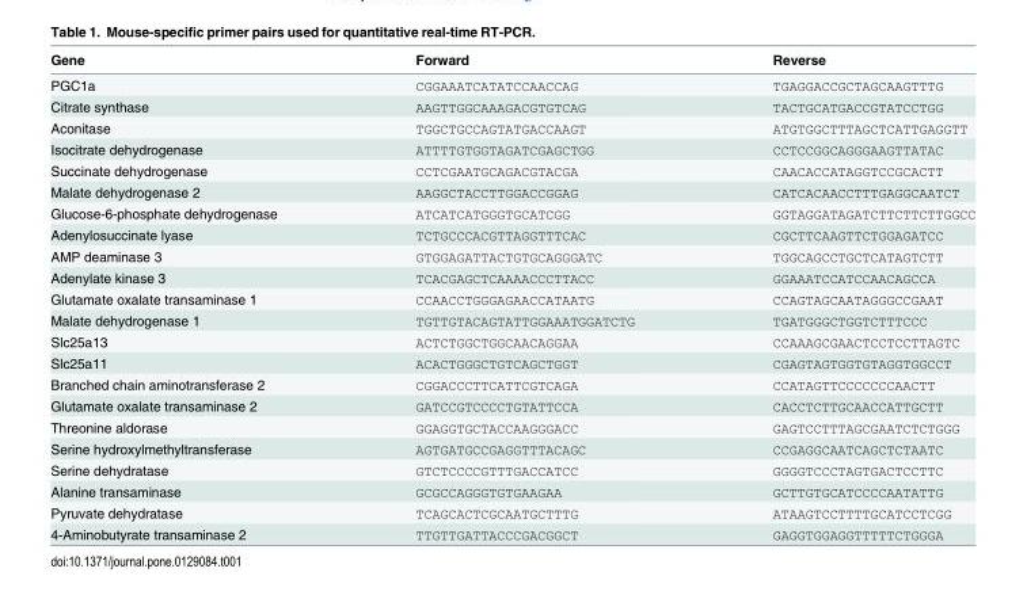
<table><thead><tr><td>Gene</td><td>Forward</td><td>Reverse</td></tr></thead><tbody><tr><td>PGC1a</td><td>CGGAAATCATATCCAACCAG</td><td>TGAGGACCGCTAGCAAGTTTG</td></tr><tr><td>Citrate synthase</td><td>AAGTTGGCAAAGACGTGTCAG</td><td>TACTGCATGACCGTATCCTGG</td></tr><tr><td>Aconitase</td><td>TGGCTGCCAGTATGACCAAGT</td><td>ATGTGGCTTTAGCTCATTGAGGTT</td></tr><tr><td>Isocitrate dehydrogenase</td><td>ATTTTGTGGTAGATCGAGCTGG</td><td>CCTCCGGCAGGGAAGTTATAC</td></tr><tr><td>Succinate dehydrogenase</td><td>CCTCGAATGCAGACGTACGA</td><td>CAACACCATAGGTCCGCACTT</td></tr><tr><td>Malate dehydrogenase 2</td><td>AAGGCTACCTTGGACCGGAG</td><td>CATCACAACCTTTGAGGCAATCT</td></tr><tr><td>Glucose-6-phosphate dehydrogenase</td><td>ATCATCATGGGTGCATCGG</td><td>GGTAGGATAGATCTTCTTCTTGGCC</td></tr><tr><td>Adenylosuccinate lyase</td><td>TCTGCCCACGTTAGGTTTCAC</td><td>CGCTTCAAGTTCTGGAGATCC</td></tr><tr><td>AMP deaminase 3</td><td>GTGGAGATTACTGTGCAGGGATC</td><td>TGGCAGCCTGCTCATAGTCTT</td></tr><tr><td>Adenylate kinase 3</td><td>TCACGAGCTCAAAACCCTTACC</td><td>GGAAATCCATCCAACAGCCA</td></tr><tr><td>Glutamate oxalate transaminase 1</td><td>CCAACCTGGGAGAACCATAATG</td><td>CCAGTAGCAATAGGGCCGAAT</td></tr><tr><td>Malate dehydrogenase 1</td><td>TGTTGTACAGTATTGGAAATGGATCTG</td><td>TGATGGGCTGGTCTTTCCC</td></tr><tr><td>Slc25a13</td><td>ACTCTGGCTGGCAACAGGAA</td><td>CCAAAGCGAACTCCTCCTTAGTC</td></tr><tr><td>Slc25a11</td><td>ACACTGGGCTGTCAGCTGGT</td><td>CGAGTAGTGGTGTAGGTGGCCT</td></tr><tr><td>Branched chain aminotransferase 2</td><td>CGGACCCTTCATTCGTCAGA</td><td>CCATAGTTCCCCCCCAACTT</td></tr><tr><td>Glutamate oxalate transaminase 2</td><td>GATCCGTCCCCTGTATTCCA</td><td>CACCTCTTGCAACCATTGCTT</td></tr><tr><td>Threonine aldorase</td><td>GGAGGTGCTACCAAGGGACC</td><td>GAGTCCTTTAGCGAATCTCTGGG</td></tr><tr><td>Serine hydroxylmethyltransferase</td><td>AGTGATGCCGAGGTTTACAGC</td><td>CCGAGGCAATCAGCTCTAATC</td></tr><tr><td>Serine dehydratase</td><td>GTCTCCCCGTTTGACCATCC</td><td>GGGGTCCCTAGTGACTCCTTC</td></tr><tr><td>Alanine transaminase</td><td>GCGCCAGGGTGTGAAGAA</td><td>GCTTGTGCATCCCCAATATTG</td></tr><tr><td>Pyruvate dehydratase</td><td>TCAGCACTCGCAATGCTTTG</td><td>ATAAGTCCTTTTGCATCCTCGG</td></tr><tr><td>4-Aminobutyrate transaminase 2</td><td>TTGTTGATTACCCGACGGCT</td><td>GAGGTGGAGGTTTTTCTGGGA</td></tr></tbody></table>